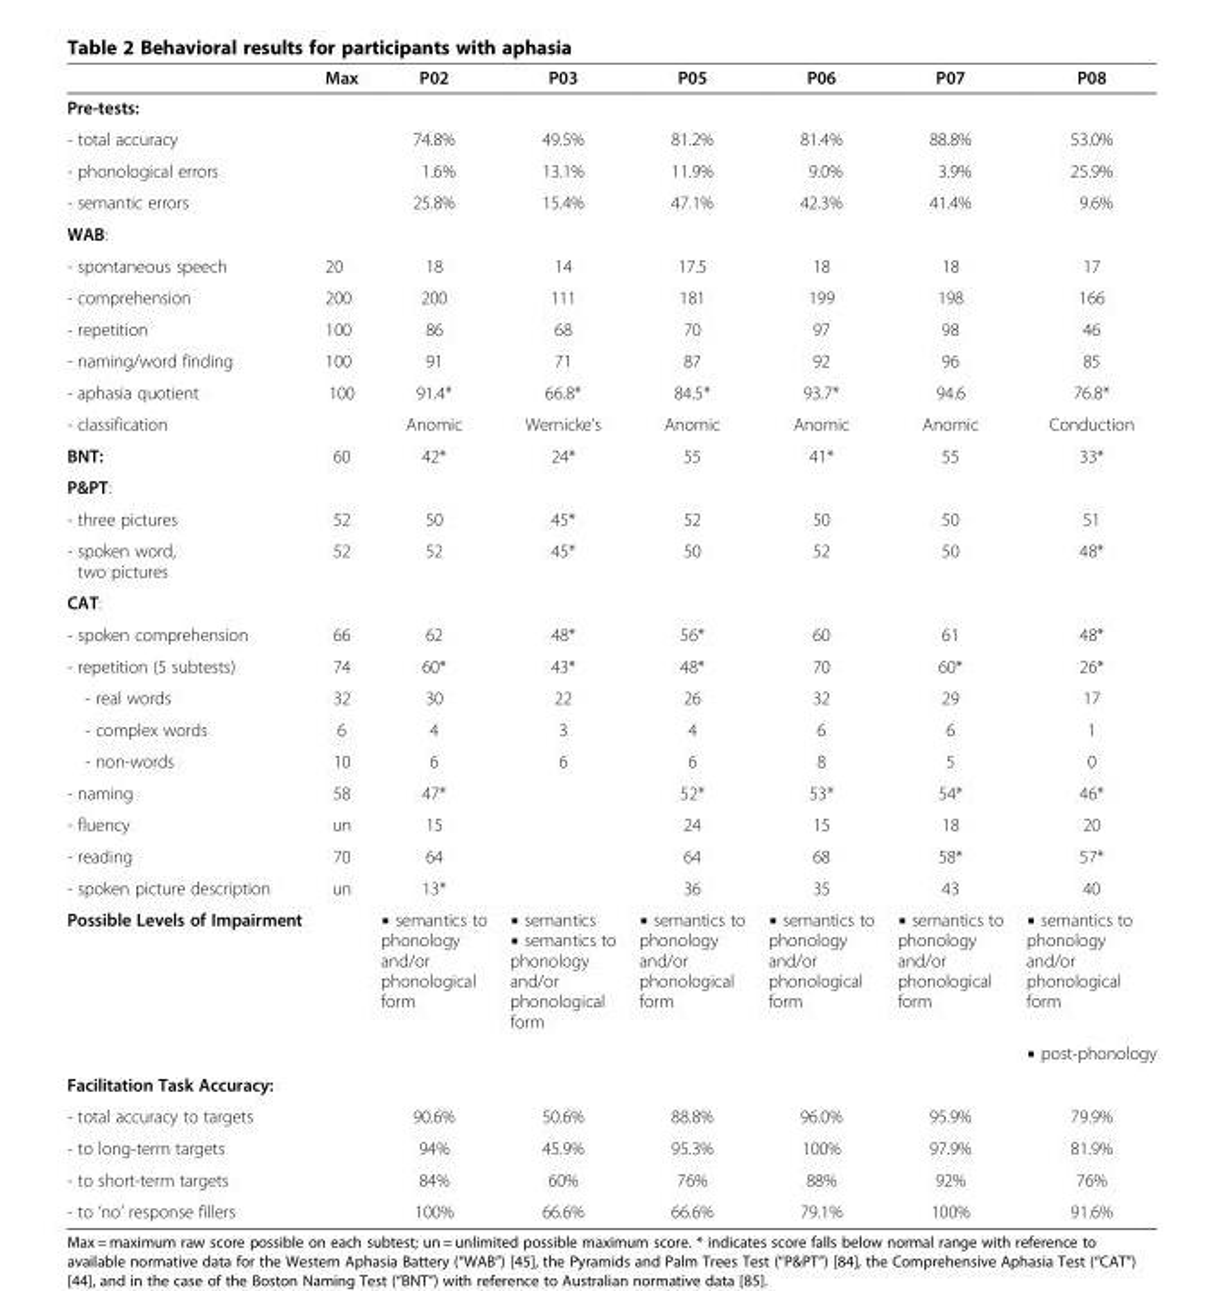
<table><thead><tr><td></td><td>Max</td><td>P02</td><td>P03</td><td>P05</td><td>P06</td><td>P07</td><td>P08</td></tr></thead><tbody><tr><td colspan="8">Pre-tests:</td></tr><tr><td>- total accuracy</td><td></td><td>74.8%</td><td>49.5%</td><td>81.2%</td><td>81.4%</td><td>88.8%</td><td>53.0%</td></tr><tr><td>- phonological errors</td><td></td><td>1.6%</td><td>13.1%</td><td>11.9%</td><td>9.0%</td><td>3.9%</td><td>25.9%</td></tr><tr><td>- semantic errors</td><td></td><td>25.8%</td><td>15.4%</td><td>47.1%</td><td>42.3%</td><td>41.4%</td><td>9.6%</td></tr><tr><td colspan="8">WAB:</td></tr><tr><td>- spontaneous speech</td><td>20</td><td>18</td><td>14</td><td>17.5</td><td>18</td><td>18</td><td>17</td></tr><tr><td>- comprehension</td><td>200</td><td>200</td><td>111</td><td>181</td><td>199</td><td>198</td><td>166</td></tr><tr><td>- repetition</td><td>100</td><td>86</td><td>68</td><td>70</td><td>97</td><td>98</td><td>46</td></tr><tr><td>- naming/word finding</td><td>100</td><td>91</td><td>71</td><td>87</td><td>92</td><td>96</td><td>85</td></tr><tr><td>- aphasia quotient</td><td>100</td><td>91.4*</td><td>66.8*</td><td>84.5*</td><td>93.7*</td><td>94.6</td><td>76.8*</td></tr><tr><td>- classification</td><td></td><td>Anomic</td><td>Wernicke’s</td><td>Anomic</td><td>Anomic</td><td>Anomic</td><td>Conduction</td></tr><tr><td>BNT:</td><td>60</td><td>42*</td><td>24*</td><td>55</td><td>41*</td><td>55</td><td>33*</td></tr><tr><td colspan="8">P&amp;PT:</td></tr><tr><td>- three pictures</td><td>52</td><td>50</td><td>45*</td><td>52</td><td>50</td><td>50</td><td>51</td></tr><tr><td>- spoken word, two pictures</td><td>52</td><td>52</td><td>45*</td><td>50</td><td>52</td><td>50</td><td>48*</td></tr><tr><td colspan="8">CAT:</td></tr><tr><td>- spoken comprehension</td><td>66</td><td>62</td><td>48*</td><td>56*</td><td>60</td><td>61</td><td>48*</td></tr><tr><td>- repetition (5 subtests)</td><td>74</td><td>60*</td><td>43*</td><td>48*</td><td>70</td><td>60*</td><td>26*</td></tr><tr><td>- real words</td><td>32</td><td>30</td><td>22</td><td>26</td><td>32</td><td>29</td><td>17</td></tr><tr><td>- complex words</td><td>6</td><td>4</td><td>3</td><td>4</td><td>6</td><td>6</td><td>1</td></tr><tr><td>- non-words</td><td>10</td><td>6</td><td>6</td><td>6</td><td>8</td><td>5</td><td>0</td></tr><tr><td>- naming</td><td>58</td><td>47*</td><td></td><td>52*</td><td>53*</td><td>54*</td><td>46*</td></tr><tr><td>- fluency</td><td>un</td><td>15</td><td></td><td>24</td><td>15</td><td>18</td><td>20</td></tr><tr><td>- reading</td><td>70</td><td>64</td><td></td><td>64</td><td>68</td><td>58*</td><td>57*</td></tr><tr><td>- spoken picture description</td><td>un</td><td>13*</td><td></td><td>36</td><td>35</td><td>43</td><td>40</td></tr><tr><td rowspan="2">Possible Levels of Impairment</td><td></td><td>▪ semantics to phonology and/or phonological form</td><td>▪ semantics ▪ semantics to phonology and/or phonological form</td><td>▪ semantics to phonology and/or phonological form</td><td>▪ semantics to phonology and/or phonological form</td><td>▪ semantics to phonology and/or phonological form</td><td>▪ semantics to phonology and/or phonological form</td></tr><tr><td></td><td></td><td></td><td></td><td></td><td></td><td>▪ post-phonology</td></tr><tr><td colspan="8">Facilitation Task Accuracy:</td></tr><tr><td>- total accuracy to targets</td><td></td><td>90.6%</td><td>50.6%</td><td>88.8%</td><td>96.0%</td><td>95.9%</td><td>79.9%</td></tr><tr><td>- to long-term targets</td><td></td><td>94%</td><td>45.9%</td><td>95.3%</td><td>100%</td><td>97.9%</td><td>81.9%</td></tr><tr><td>- to short-term targets</td><td></td><td>84%</td><td>60%</td><td>76%</td><td>88%</td><td>92%</td><td>76%</td></tr><tr><td>- to ‘no’ response fillers</td><td></td><td>100%</td><td>66.6%</td><td>66.6%</td><td>79.1%</td><td>100%</td><td>91.6%</td></tr></tbody></table>